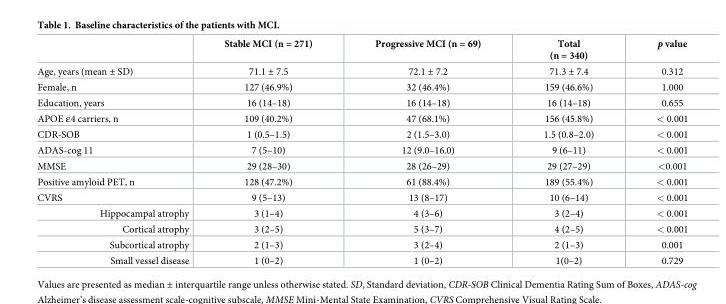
<table><thead><tr><td></td><td>Stable MCI (n = 271)</td><td>Progressive MCI (n = 69)</td><td>Total (n = 340)</td><td>p value</td></tr></thead><tbody><tr><td>Age, years (mean ± SD)</td><td>71.1 ± 7.5</td><td>72.1 ± 7.2</td><td>71.3 ± 7.4</td><td>0.312</td></tr><tr><td>Female, n</td><td>127 (46.9%)</td><td>32 (46.4%)</td><td>159 (46.6%)</td><td>1.000</td></tr><tr><td>Education, years</td><td>16 (14–18)</td><td>16 (14–18)</td><td>16 (14–18)</td><td>0.655</td></tr><tr><td>APOE ε4 carriers, n</td><td>109 (40.2%)</td><td>47 (68.1%)</td><td>156 (45.8%)</td><td>&lt; 0.001</td></tr><tr><td>CDR-SOB</td><td>1 (0.5–1.5)</td><td>2 (1.5–3.0)</td><td>1.5 (0.8–2.0)</td><td>&lt; 0.001</td></tr><tr><td>ADAS-cog 11</td><td>7 (5–10)</td><td>12 (9.0–16.0)</td><td>9 (6–11)</td><td>&lt; 0.001</td></tr><tr><td>MMSE</td><td>29 (28–30)</td><td>28 (26–29)</td><td>29 (27–29)</td><td>&lt;0.001</td></tr><tr><td>Positive amyloid PET, n</td><td>128 (47.2%)</td><td>61 (88.4%)</td><td>189 (55.4%)</td><td>&lt; 0.001</td></tr><tr><td>CVRS</td><td>9 (5–13)</td><td>13 (8–17)</td><td>10 (6–14)</td><td>&lt; 0.001</td></tr><tr><td>Hippocampal atrophy</td><td>3 (1–4)</td><td>4 (3–6)</td><td>3 (2–4)</td><td>&lt; 0.001</td></tr><tr><td>Cortical atrophy</td><td>3 (2–5)</td><td>5 (3–7)</td><td>4 (2–5)</td><td>&lt; 0.001</td></tr><tr><td>Subcortical atrophy</td><td>2 (1–3)</td><td>3 (2–4)</td><td>2 (1–3)</td><td>0.001</td></tr><tr><td>Small vessel disease</td><td>1 (0–2)</td><td>1 (0–2)</td><td>1(0–2)</td><td>0.729</td></tr></tbody></table>